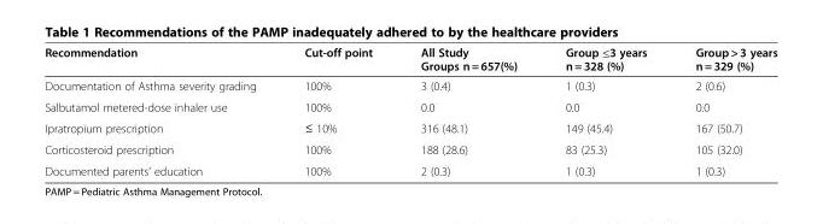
<table><thead><tr><td>Recommendation</td><td>Cut-off point</td><td>All Study Groups n = 657(%)</td><td>Group ≤3 years n = 328 (%)</td><td>Group &gt; 3 years n = 329 (%)</td></tr></thead><tbody><tr><td>Documentation of Asthma severity grading</td><td>100%</td><td>3 (0.4)</td><td>1 (0.3)</td><td>2 (0.6)</td></tr><tr><td>Salbutamol metered-dose inhaler use</td><td>100%</td><td>0.0</td><td>0.0</td><td>0.0</td></tr><tr><td>Ipratropium prescription</td><td>≤ 10%</td><td>316 (48.1)</td><td>149 (45.4)</td><td>167 (50.7)</td></tr><tr><td>Corticosteroid prescription</td><td>100%</td><td>188 (28.6)</td><td>83 (25.3)</td><td>105 (32.0)</td></tr><tr><td>Documented parents’ education</td><td>100%</td><td>2 (0.3)</td><td>1 (0.3)</td><td>1 (0.3)</td></tr></tbody></table>